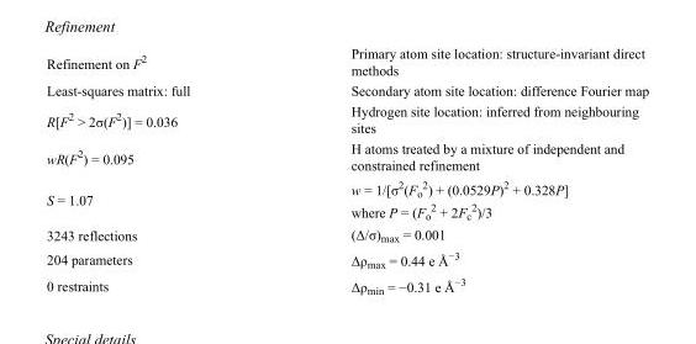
<table><tbody><tr><td>Refinement on F<sup>2</sup></td><td>Primary atom site location: structure-invariant direct methods</td></tr><tr><td>Least-squares matrix: full</td><td>Secondary atom site location: difference Fourier map</td></tr><tr><td>R[F<sup>2</sup> &gt; 2σ(F<sup>2</sup>)] = 0.036</td><td>Hydrogen site location: inferred from neighbouring sites</td></tr><tr><td>wR(F<sup>2</sup>) = 0.095</td><td>H atoms treated by a mixture of independent and constrained refinement</td></tr><tr><td>S = 1.07</td><td>w = 1/[σ<sup>2</sup>(F<sub>o</sub> <sup>2</sup>) + (0.0529P)<sup>2</sup> + 0.328P] where P = (F<sub>o</sub> <sup>2</sup> + 2F<sub>c</sub> <sup>2</sup>)/3</td></tr><tr><td>3243 reflections</td><td>(Δ/σ)<sub>max</sub> = 0.001</td></tr><tr><td>204 parameters</td><td>Δρ<sub>max</sub> = 0.44 e Å<sup>−3</sup></td></tr><tr><td>0 restraints</td><td>Δρ<sub>min</sub> = −0.31 e Å<sup>−3</sup></td></tr></tbody></table>